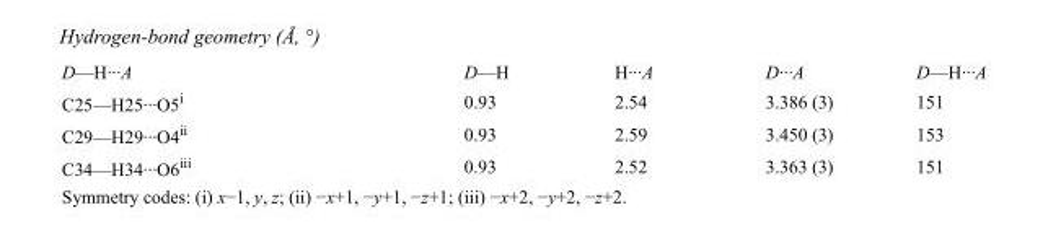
<table><tbody><tr><td>D—H···A</td><td>D—H</td><td>H···A</td><td>D···A</td><td>D—H···A</td></tr><tr><td>C25—H25···O5<sup>i</sup></td><td>0.93</td><td>2.54</td><td>3.386 (3)</td><td>151</td></tr><tr><td>C29—H29···O4<sup>ii</sup></td><td>0.93</td><td>2.59</td><td>3.450 (3)</td><td>153</td></tr><tr><td>C34—H34···O6<sup>iii</sup></td><td>0.93</td><td>2.52</td><td>3.363 (3)</td><td>151</td></tr></tbody></table>